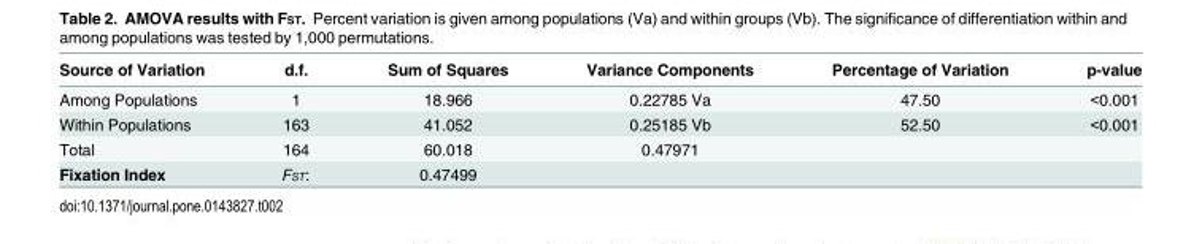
<table><thead><tr><td>Source of Variation</td><td>d.f.</td><td>Sum of Squares</td><td>Variance Components</td><td>Percentage of Variation</td><td>p-value</td></tr></thead><tbody><tr><td>Among Populations</td><td>1</td><td>18.966</td><td>0.22785 Va</td><td>47.50</td><td>&lt;0.001</td></tr><tr><td>Within Populations</td><td>163</td><td>41.052</td><td>0.25185 Vb</td><td>52.50</td><td>&lt;0.001</td></tr><tr><td>Total</td><td>164</td><td>60.018</td><td>0.47971</td><td></td><td></td></tr><tr><td>Fixation Index</td><td>FST:</td><td>0.47499</td><td></td><td></td><td></td></tr></tbody></table>